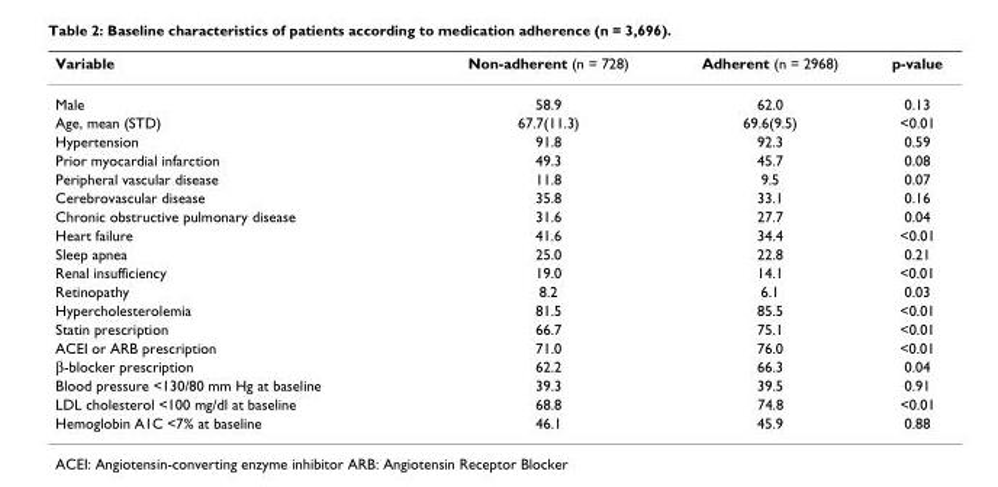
<table><thead><tr><td>Variable</td><td>Non-adherent (n = 728)</td><td>Adherent (n = 2968)</td><td>p-value</td></tr></thead><tbody><tr><td>Male</td><td>58.9</td><td>62.0</td><td>0.13</td></tr><tr><td>Age, mean (STD)</td><td>67.7(11.3)</td><td>69.6(9.5)</td><td>&lt;0.01</td></tr><tr><td>Hypertension</td><td>91.8</td><td>92.3</td><td>0.59</td></tr><tr><td>Prior myocardial infarction</td><td>49.3</td><td>45.7</td><td>0.08</td></tr><tr><td>Peripheral vascular disease</td><td>11.8</td><td>9.5</td><td>0.07</td></tr><tr><td>Cerebrovascular disease</td><td>35.8</td><td>33.1</td><td>0.16</td></tr><tr><td>Chronic obstructive pulmonary disease</td><td>31.6</td><td>27.7</td><td>0.04</td></tr><tr><td>Heart failure</td><td>41.6</td><td>34.4</td><td>&lt;0.01</td></tr><tr><td>Sleep apnea</td><td>25.0</td><td>22.8</td><td>0.21</td></tr><tr><td>Renal insufficiency</td><td>19.0</td><td>14.1</td><td>&lt;0.01</td></tr><tr><td>Retinopathy</td><td>8.2</td><td>6.1</td><td>0.03</td></tr><tr><td>Hypercholesterolemia</td><td>81.5</td><td>85.5</td><td>&lt;0.01</td></tr><tr><td>Statin prescription</td><td>66.7</td><td>75.1</td><td>&lt;0.01</td></tr><tr><td>ACEI or ARB prescription</td><td>71.0</td><td>76.0</td><td>&lt;0.01</td></tr><tr><td>β-blocker prescription</td><td>62.2</td><td>66.3</td><td>0.04</td></tr><tr><td>Blood pressure &lt;130/80 mm Hg at baseline</td><td>39.3</td><td>39.5</td><td>0.91</td></tr><tr><td>LDL cholesterol &lt;100 mg/dl at baseline</td><td>68.8</td><td>74.8</td><td>&lt;0.01</td></tr><tr><td>Hemoglobin A1C &lt;7% at baseline</td><td>46.1</td><td>45.9</td><td>0.88</td></tr></tbody></table>